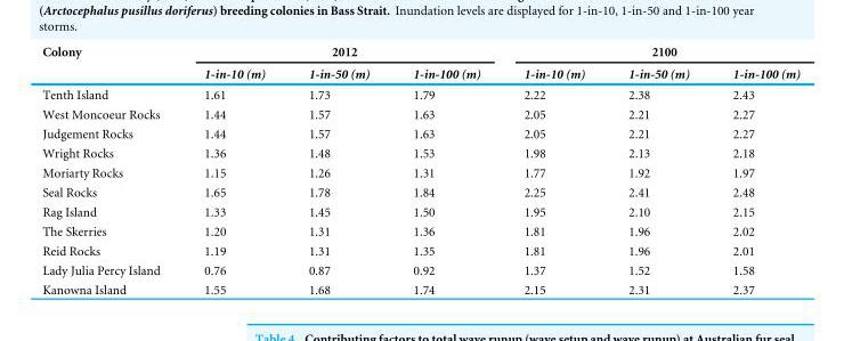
<table><thead><tr><td rowspan="2">Colony</td><td colspan="3">2012</td><td colspan="3">2100</td></tr><tr><td>1-in-10 (m)</td><td>1-in-50 (m)</td><td>1-in-100 (m)</td><td>1-in-10 (m)</td><td>1-in-50 (m)</td><td>1-in-100 (m)</td></tr></thead><tbody><tr><td>Tenth Island</td><td>1.61</td><td>1.73</td><td>1.79</td><td>2.22</td><td>2.38</td><td>2.43</td></tr><tr><td>West Moncoeur Rocks</td><td>1.44</td><td>1.57</td><td>1.63</td><td>2.05</td><td>2.21</td><td>2.27</td></tr><tr><td>Judgement Rocks</td><td>1.44</td><td>1.57</td><td>1.63</td><td>2.05</td><td>2.21</td><td>2.27</td></tr><tr><td>Wright Rocks</td><td>1.36</td><td>1.48</td><td>1.53</td><td>1.98</td><td>2.13</td><td>2.18</td></tr><tr><td>Moriarty Rocks</td><td>1.15</td><td>1.26</td><td>1.31</td><td>1.77</td><td>1.92</td><td>1.97</td></tr><tr><td>Seal Rocks</td><td>1.65</td><td>1.78</td><td>1.84</td><td>2.25</td><td>2.41</td><td>2.48</td></tr><tr><td>Rag Island</td><td>1.33</td><td>1.45</td><td>1.50</td><td>1.95</td><td>2.10</td><td>2.15</td></tr><tr><td>The Skerries</td><td>1.20</td><td>1.31</td><td>1.36</td><td>1.81</td><td>1.96</td><td>2.02</td></tr><tr><td>Reid Rocks</td><td>1.19</td><td>1.31</td><td>1.35</td><td>1.81</td><td>1.96</td><td>2.01</td></tr><tr><td>Lady Julia Percy Island</td><td>0.76</td><td>0.87</td><td>0.92</td><td>1.37</td><td>1.52</td><td>1.58</td></tr><tr><td>Kanowna Island</td><td>1.55</td><td>1.68</td><td>1.74</td><td>2.15</td><td>2.31</td><td>2.37</td></tr></tbody></table>